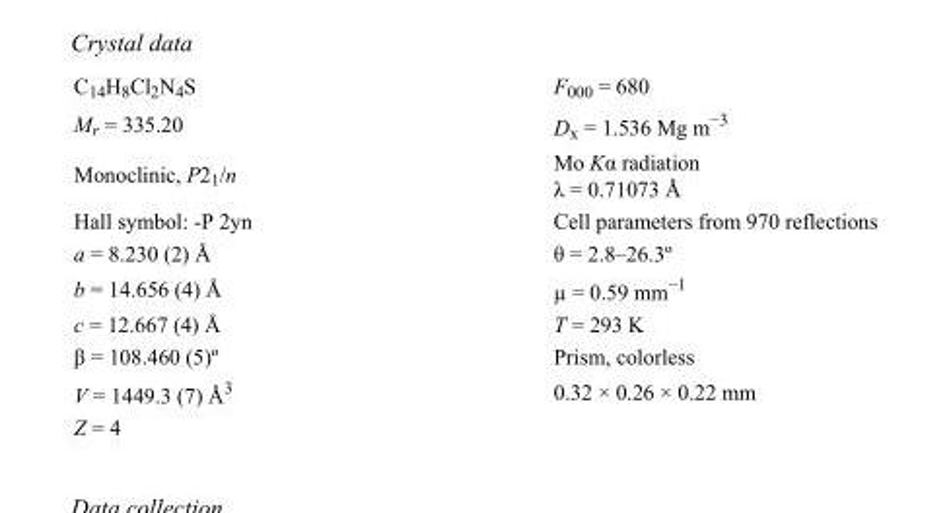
<table><tbody><tr><td>C<sub>14</sub>H<sub>8</sub>Cl<sub>2</sub>N<sub>4</sub>S</td><td>F000 = 680</td></tr><tr><td>M<sub>r</sub> = 335.20</td><td>D<sub>x</sub> = 1.536 Mg m<sup>−3</sup></td></tr><tr><td>Monoclinic, P2<sub>1</sub>/n</td><td>Mo Kα radiation λ = 0.71073 Å</td></tr><tr><td>Hall symbol: -P 2yn</td><td>Cell parameters from 970 reflections</td></tr><tr><td>a = 8.230 (2) Å</td><td>θ = 2.8–26.3º</td></tr><tr><td>b = 14.656 (4) Å</td><td>µ = 0.59 mm<sup>−1</sup></td></tr><tr><td>c = 12.667 (4) Å</td><td>T = 293 K</td></tr><tr><td>β = 108.460 (5)º</td><td>Prism, colorless</td></tr><tr><td>V = 1449.3 (7) Å<sup>3</sup></td><td>0.32 × 0.26 × 0.22 mm</td></tr><tr><td>Z = 4</td><td></td></tr></tbody></table>